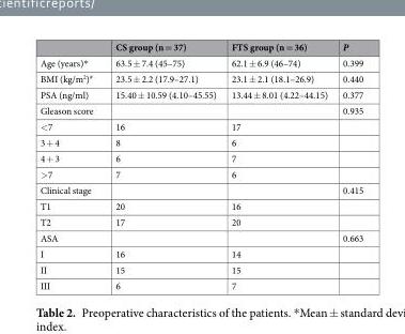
<table><thead><tr><td></td><td>CS group (n = 37)</td><td>FTS group (n = 36)</td><td>P</td></tr></thead><tbody><tr><td>Age (years)*</td><td>63.5 ± 7.4 (45–75)</td><td>62.1 ± 6.9 (46–74)</td><td>0.399</td></tr><tr><td>BMI (kg/m<sup>2</sup>)<sup>#</sup></td><td>23.5 ± 2.2 (17.9–27.1)</td><td>23.1 ± 2.1 (18.1–26.9)</td><td>0.440</td></tr><tr><td>PSA (ng/ml)</td><td>15.40 ± 10.59 (4.10–45.55)</td><td>13.44 ± 8.01 (4.22–44.15)</td><td>0.377</td></tr><tr><td>Gleason score</td><td></td><td></td><td>0.935</td></tr><tr><td>&lt;7</td><td>16</td><td>17</td><td></td></tr><tr><td>3 + 4</td><td>8</td><td>6</td><td></td></tr><tr><td>4 + 3</td><td>6</td><td>7</td><td></td></tr><tr><td>&gt;7</td><td>7</td><td>6</td><td></td></tr><tr><td>Clinical stage</td><td></td><td></td><td>0.415</td></tr><tr><td>T1</td><td>20</td><td>16</td><td></td></tr><tr><td>T2</td><td>17</td><td>20</td><td></td></tr><tr><td>ASA</td><td></td><td></td><td>0.663</td></tr><tr><td>I</td><td>16</td><td>14</td><td></td></tr><tr><td>II</td><td>15</td><td>15</td><td></td></tr><tr><td>III</td><td>6</td><td>7</td><td></td></tr></tbody></table>